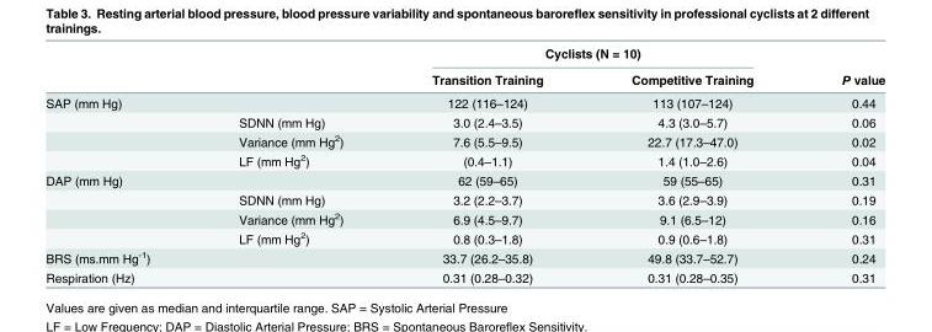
<table><thead><tr><td rowspan="2"></td><td rowspan="2"></td><td colspan="2">Cyclists (N = 10)</td><td rowspan="2">P value</td></tr><tr><td>Transition Training</td><td>Competitive Training</td></tr></thead><tbody><tr><td rowspan="4">SAP (mm Hg)</td><td></td><td>122 (116–124)</td><td>113 (107–124)</td><td>0.44</td></tr><tr><td>SDNN (mm Hg)</td><td>3.0 (2.4–3.5)</td><td>4.3 (3.0–5.7)</td><td>0.06</td></tr><tr><td>Variance (mm Hg<sup>2</sup>)</td><td>7.6 (5.5–9.5)</td><td>22.7 (17.3–47.0)</td><td>0.02</td></tr><tr><td>LF (mm Hg<sup>2</sup>)</td><td>(0.4–1.1)</td><td>1.4 (1.0–2.6)</td><td>0.04</td></tr><tr><td rowspan="4">DAP (mm Hg)</td><td></td><td>62 (59–65)</td><td>59 (55–65)</td><td>0.31</td></tr><tr><td>SDNN (mm Hg)</td><td>3.2 (2.2–3.7)</td><td>3.6 (2.9–3.9)</td><td>0.19</td></tr><tr><td>Variance (mm Hg<sup>2</sup>)</td><td>6.9 (4.5–9.7)</td><td>9.1 (6.5–12)</td><td>0.16</td></tr><tr><td>LF (mm Hg<sup>2</sup>)</td><td>0.8 (0.3–1.8)</td><td>0.9 (0.6–1.8)</td><td>0.31</td></tr><tr><td>BRS (ms.mm Hg<sup>-1</sup>)</td><td></td><td>33.7 (26.2–35.8)</td><td>49.8 (33.7–52.7)</td><td>0.24</td></tr><tr><td>Respiration (Hz)</td><td></td><td>0.31 (0.28–0.32)</td><td>0.31 (0.28–0.35)</td><td>0.31</td></tr></tbody></table>